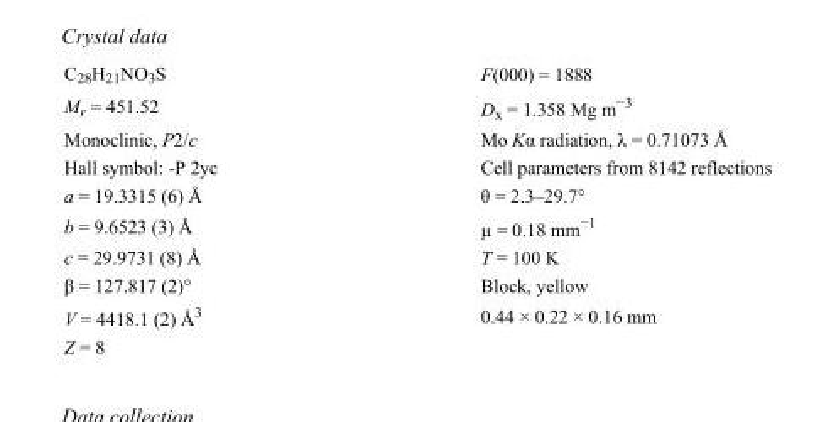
<table><tbody><tr><td>C<sub>28</sub>H<sub>21</sub>NO<sub>3</sub>S</td><td>F(000) = 1888</td></tr><tr><td>M<sub>r</sub> = 451.52</td><td>D<sub>x</sub> = 1.358 Mg m<sup>−3</sup></td></tr><tr><td>Monoclinic, P2/c</td><td>Mo Kα radiation, λ = 0.71073 Å</td></tr><tr><td>Hall symbol: -P 2yc</td><td>Cell parameters from 8142 reflections</td></tr><tr><td>a = 19.3315 (6) Å</td><td>θ = 2.3–29.7°</td></tr><tr><td>b = 9.6523 (3) Å</td><td>µ = 0.18 mm<sup>−1</sup></td></tr><tr><td>c = 29.9731 (8) Å</td><td>T = 100 K</td></tr><tr><td>β = 127.817 (2)°</td><td>Block, yellow</td></tr><tr><td>V = 4418.1 (2) Å<sup>3</sup></td><td>0.44 × 0.22 × 0.16 mm</td></tr><tr><td>Z = 8</td><td></td></tr></tbody></table>